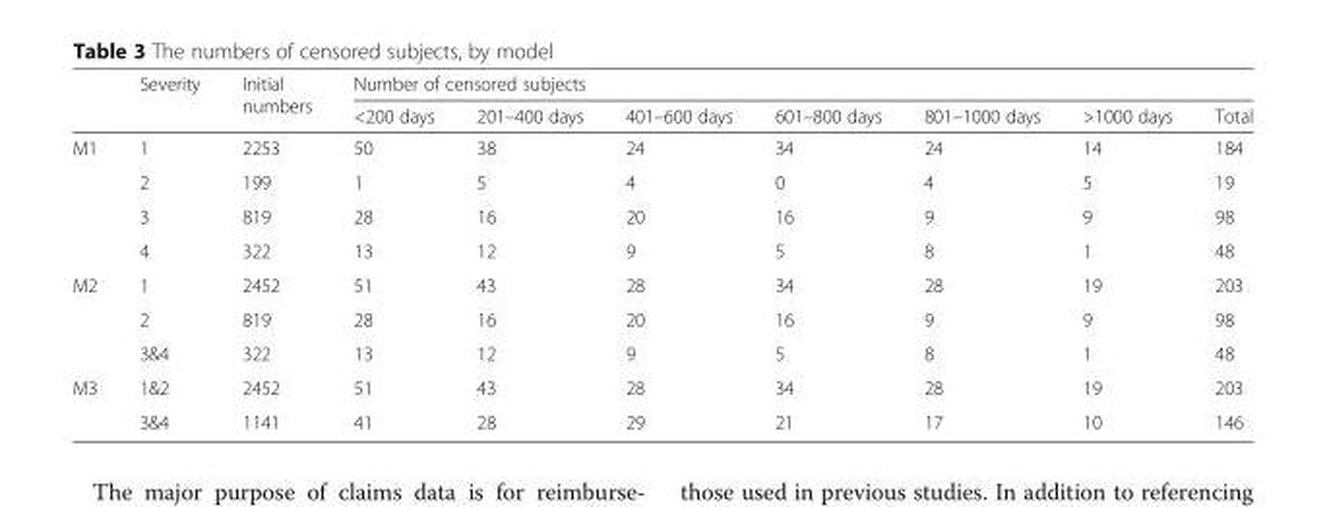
<table><thead><tr><td rowspan="2"></td><td rowspan="2">Severity</td><td rowspan="2">Initial numbers</td><td colspan="7">Number of censored subjects</td></tr><tr><td>&lt;200 days</td><td>201–400 days</td><td>401–600 days</td><td>601–800 days</td><td>801–1000 days</td><td>&gt;1000 days</td><td>Total</td></tr></thead><tbody><tr><td rowspan="4">M1</td><td>1</td><td>2253</td><td>50</td><td>38</td><td>24</td><td>34</td><td>24</td><td>14</td><td>184</td></tr><tr><td>2</td><td>199</td><td>1</td><td>5</td><td>4</td><td>0</td><td>4</td><td>5</td><td>19</td></tr><tr><td>3</td><td>819</td><td>28</td><td>16</td><td>20</td><td>16</td><td>9</td><td>9</td><td>98</td></tr><tr><td>4</td><td>322</td><td>13</td><td>12</td><td>9</td><td>5</td><td>8</td><td>1</td><td>48</td></tr><tr><td rowspan="3">M2</td><td>1</td><td>2452</td><td>51</td><td>43</td><td>28</td><td>34</td><td>28</td><td>19</td><td>203</td></tr><tr><td>2</td><td>819</td><td>28</td><td>16</td><td>20</td><td>16</td><td>9</td><td>9</td><td>98</td></tr><tr><td>3&amp;4</td><td>322</td><td>13</td><td>12</td><td>9</td><td>5</td><td>8</td><td>1</td><td>48</td></tr><tr><td rowspan="2">M3</td><td>1&amp;2</td><td>2452</td><td>51</td><td>43</td><td>28</td><td>34</td><td>28</td><td>19</td><td>203</td></tr><tr><td>3&amp;4</td><td>1141</td><td>41</td><td>28</td><td>29</td><td>21</td><td>17</td><td>10</td><td>146</td></tr></tbody></table>